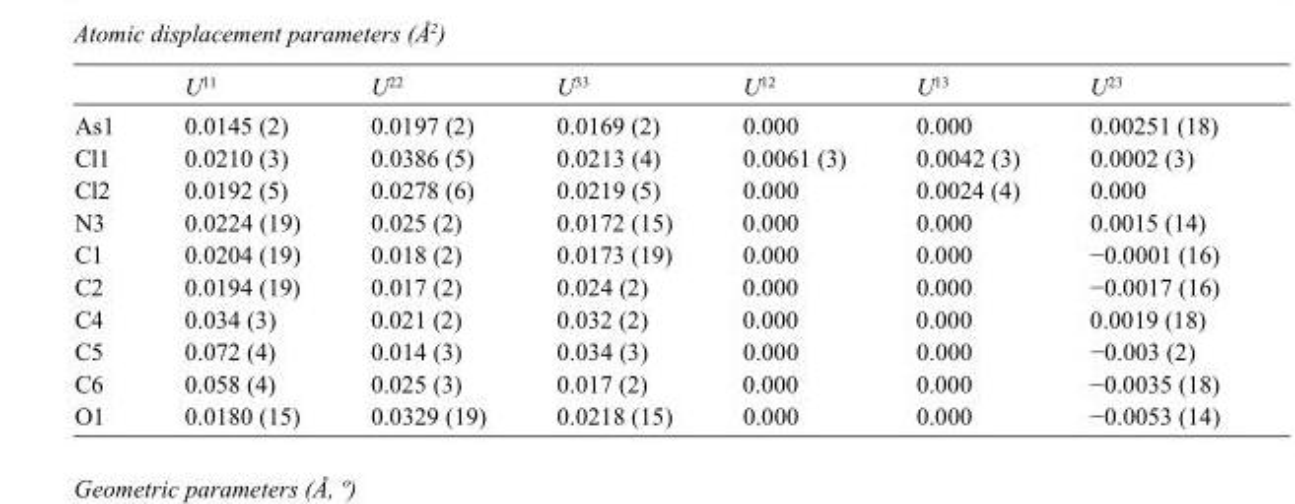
<table><thead><tr><td></td><td>U<sup>11</sup></td><td>U<sup>22</sup></td><td>U<sup>33</sup></td><td>U<sup>12</sup></td><td>U<sup>13</sup></td><td>U<sup>23</sup></td></tr></thead><tbody><tr><td>As1</td><td>0.0145 (2)</td><td>0.0197 (2)</td><td>0.0169 (2)</td><td>0.000</td><td>0.000</td><td>0.00251 (18)</td></tr><tr><td>Cl1</td><td>0.0210 (3)</td><td>0.0386 (5)</td><td>0.0213 (4)</td><td>0.0061 (3)</td><td>0.0042 (3)</td><td>0.0002 (3)</td></tr><tr><td>Cl2</td><td>0.0192 (5)</td><td>0.0278 (6)</td><td>0.0219 (5)</td><td>0.000</td><td>0.0024 (4)</td><td>0.000</td></tr><tr><td>N3</td><td>0.0224 (19)</td><td>0.025 (2)</td><td>0.0172 (15)</td><td>0.000</td><td>0.000</td><td>0.0015 (14)</td></tr><tr><td>C1</td><td>0.0204 (19)</td><td>0.018 (2)</td><td>0.0173 (19)</td><td>0.000</td><td>0.000</td><td>−0.0001 (16)</td></tr><tr><td>C2</td><td>0.0194 (19)</td><td>0.017 (2)</td><td>0.024 (2)</td><td>0.000</td><td>0.000</td><td>−0.0017 (16)</td></tr><tr><td>C4</td><td>0.034 (3)</td><td>0.021 (2)</td><td>0.032 (2)</td><td>0.000</td><td>0.000</td><td>0.0019 (18)</td></tr><tr><td>C5</td><td>0.072 (4)</td><td>0.014 (3)</td><td>0.034 (3)</td><td>0.000</td><td>0.000</td><td>−0.003 (2)</td></tr><tr><td>C6</td><td>0.058 (4)</td><td>0.025 (3)</td><td>0.017 (2)</td><td>0.000</td><td>0.000</td><td>−0.0035 (18)</td></tr><tr><td>O1</td><td>0.0180 (15)</td><td>0.0329 (19)</td><td>0.0218 (15)</td><td>0.000</td><td>0.000</td><td>−0.0053 (14)</td></tr></tbody></table>